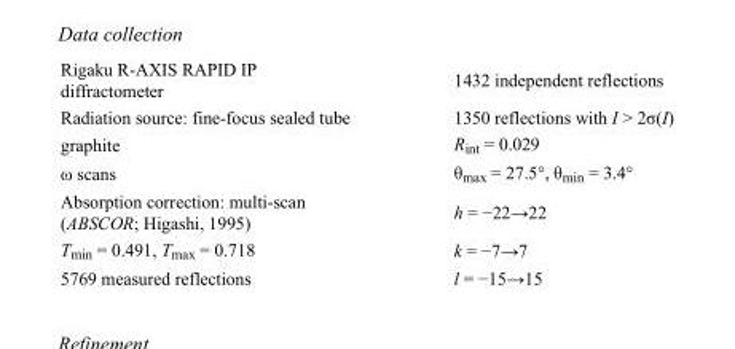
<table><tbody><tr><td>Rigaku R-AXIS RAPID IP diffractometer</td><td>1432 independent reflections</td></tr><tr><td>Radiation source: fine-focus sealed tube</td><td>1350 reflections with I &gt; 2σ(I)</td></tr><tr><td>graphite</td><td>R<sub>int</sub> = 0.029</td></tr><tr><td>ω scans</td><td>θ<sub>max</sub> = 27.5°, θ<sub>min</sub> = 3.4°</td></tr><tr><td>Absorption correction: multi-scan (ABSCOR; Higashi, 1995)</td><td>h = −22→22</td></tr><tr><td>T<sub>min</sub> = 0.491, T<sub>max</sub> = 0.718</td><td>k = −7→7</td></tr><tr><td>5769 measured reflections</td><td>l = −15→15</td></tr></tbody></table>